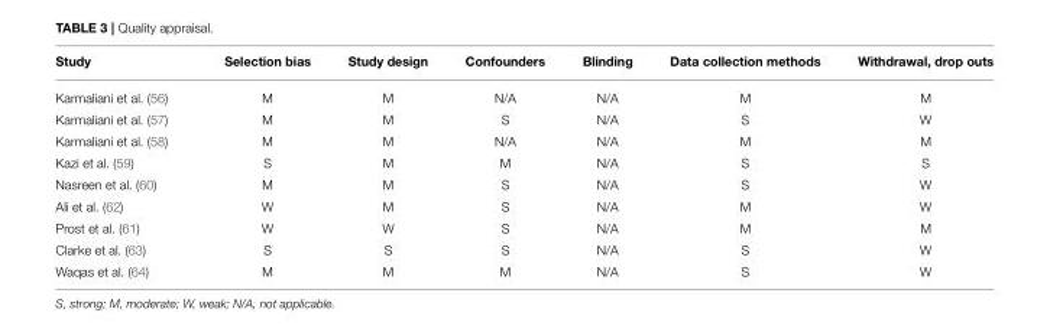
<table><thead><tr><td>Study</td><td>Selection bias</td><td>Study design</td><td>Confounders</td><td>Blinding</td><td>Data collection methods</td><td>Withdrawal, drop outs</td></tr></thead><tbody><tr><td>Karmaliani et al. (56)</td><td>M</td><td>M</td><td>N/A</td><td>N/A</td><td>M</td><td>M</td></tr><tr><td>Karmaliani et al. (57)</td><td>M</td><td>M</td><td>S</td><td>N/A</td><td>S</td><td>W</td></tr><tr><td>Karmaliani et al. (58)</td><td>M</td><td>M</td><td>N/A</td><td>N/A</td><td>M</td><td>M</td></tr><tr><td>Kazi et al. (59)</td><td>S</td><td>M</td><td>M</td><td>N/A</td><td>S</td><td>S</td></tr><tr><td>Nasreen et al. (60)</td><td>M</td><td>M</td><td>S</td><td>N/A</td><td>S</td><td>W</td></tr><tr><td>Ali et al. (62)</td><td>W</td><td>M</td><td>S</td><td>N/A</td><td>M</td><td>W</td></tr><tr><td>Prost et al. (61)</td><td>W</td><td>W</td><td>S</td><td>N/A</td><td>M</td><td>M</td></tr><tr><td>Clarke et al. (63)</td><td>S</td><td>S</td><td>S</td><td>N/A</td><td>S</td><td>W</td></tr><tr><td>Waqas et al. (64)</td><td>M</td><td>M</td><td>M</td><td>N/A</td><td>S</td><td>W</td></tr></tbody></table>